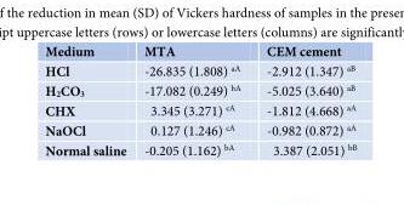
<table><thead><tr><td>Medium</td><td>MTA</td><td>CEM cement</td></tr></thead><tbody><tr><td>HCl</td><td>-26.835 (1.808) <sup>aA</sup></td><td>-2.912 (1.347) <sup>aB</sup></td></tr><tr><td>H<sub>2</sub>CO<sub>3</sub></td><td>-17.082 (0.249) <sup>bA</sup></td><td>-5.025 (3.640) <sup>aB</sup></td></tr><tr><td>CHX</td><td>3.345 (3.271) <sup>cA</sup></td><td>-1.812 (4.668) <sup>aA</sup></td></tr><tr><td>NaOCl</td><td>0.127 (1.246) <sup>cA</sup></td><td>-0.982 (0.872) <sup>aA</sup></td></tr><tr><td>Normal saline</td><td>-0.205 (1.162) <sup>bA</sup></td><td>3.387 (2.051) <sup>bB</sup></td></tr></tbody></table>